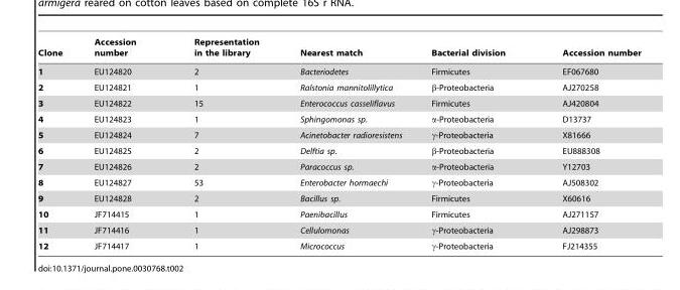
<table><thead><tr><td>Clone</td><td>Accession number</td><td>Representation in the library</td><td>Nearest match</td><td>Bacterial division</td><td>Accession number</td></tr></thead><tbody><tr><td>1</td><td>EU124820</td><td>2</td><td>Bacteriodetes</td><td>Firmicutes</td><td>EF067680</td></tr><tr><td>2</td><td>EU124821</td><td>1</td><td>Ralstonia mannitolillytica</td><td>β-Proteobacteria</td><td>AJ270258</td></tr><tr><td>3</td><td>EU124822</td><td>15</td><td>Enterococcus casseliflavus</td><td>Firmicutes</td><td>AJ420804</td></tr><tr><td>4</td><td>EU124823</td><td>1</td><td>Sphingomonas sp.</td><td>α-Proteobacteria</td><td>D13737</td></tr><tr><td>5</td><td>EU124824</td><td>7</td><td>Acinetobacter radioresistens</td><td>γ-Proteobacteria</td><td>X81666</td></tr><tr><td>6</td><td>EU124825</td><td>2</td><td>Delftia sp.</td><td>β-Proteobacteria</td><td>EU888308</td></tr><tr><td>7</td><td>EU124826</td><td>2</td><td>Paracoccus sp.</td><td>α-Proteobacteria</td><td>Y12703</td></tr><tr><td>8</td><td>EU124827</td><td>53</td><td>Enterobacter hormaechi</td><td>γ-Proteobacteria</td><td>AJ508302</td></tr><tr><td>9</td><td>EU124828</td><td>2</td><td>Bacillus sp.</td><td>Firmicutes</td><td>X60616</td></tr><tr><td>10</td><td>JF714415</td><td>1</td><td>Paenibacillus</td><td>Firmicutes</td><td>AJ271157</td></tr><tr><td>11</td><td>JF714416</td><td>1</td><td>Cellulomonas</td><td>γ-Proteobacteria</td><td>AJ298873</td></tr><tr><td>12</td><td>JF714417</td><td>1</td><td>Micrococcus</td><td>γ-Proteobacteria</td><td>FJ214355</td></tr></tbody></table>